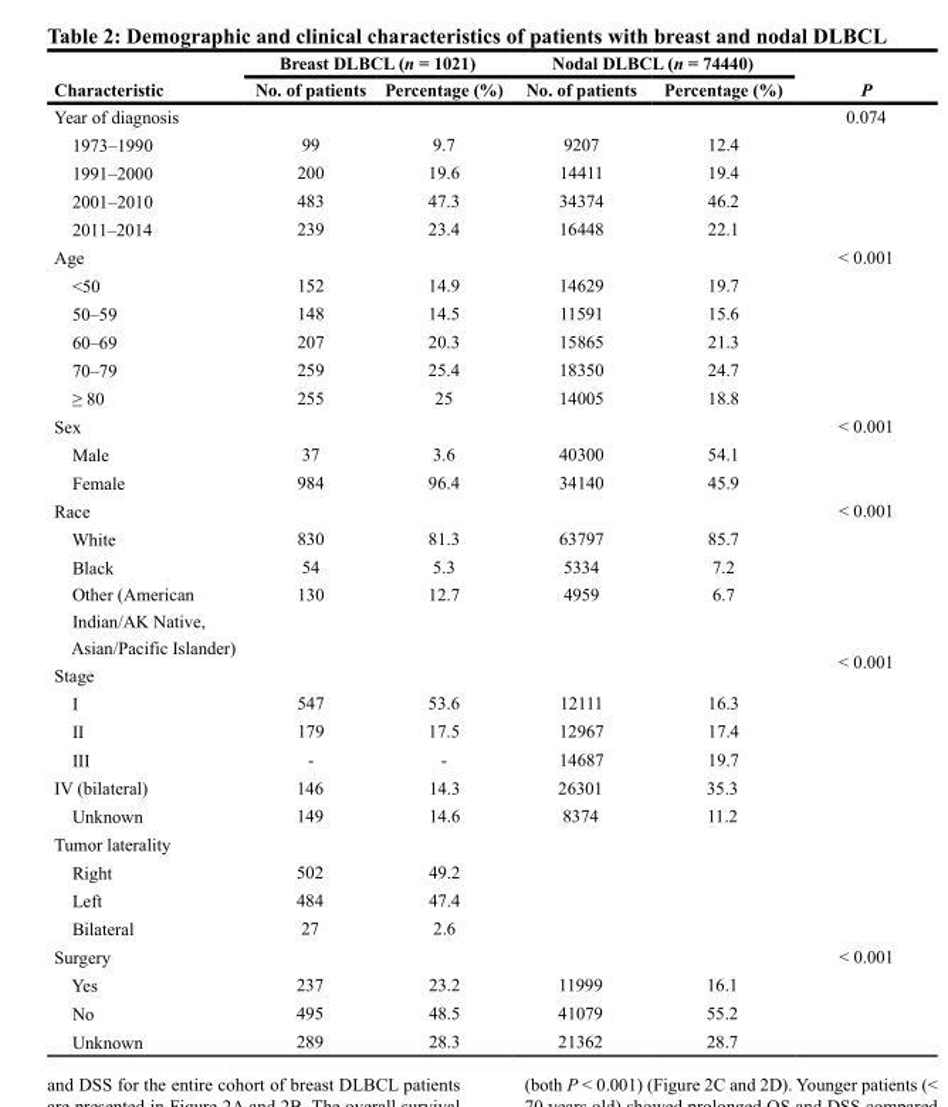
<table><thead><tr><td rowspan="2">Characteristic</td><td colspan="2">Breast DLBCL (n = 1021)</td><td colspan="2">Nodal DLBCL (n = 74440)</td><td rowspan="2">P</td></tr><tr><td>No. of patients</td><td>Percentage (%)</td><td>No. of patients</td><td>Percentage (%)</td></tr></thead><tbody><tr><td>Year of diagnosis</td><td></td><td></td><td></td><td></td><td>0.074</td></tr><tr><td>1973–1990</td><td>99</td><td>9.7</td><td>9207</td><td>12.4</td><td></td></tr><tr><td>1991–2000</td><td>200</td><td>19.6</td><td>14411</td><td>19.4</td><td></td></tr><tr><td>2001–2010</td><td>483</td><td>47.3</td><td>34374</td><td>46.2</td><td></td></tr><tr><td>2011–2014</td><td>239</td><td>23.4</td><td>16448</td><td>22.1</td><td></td></tr><tr><td>Age</td><td></td><td></td><td></td><td></td><td>&lt; 0.001</td></tr><tr><td>&lt;50</td><td>152</td><td>14.9</td><td>14629</td><td>19.7</td><td></td></tr><tr><td>50–59</td><td>148</td><td>14.5</td><td>11591</td><td>15.6</td><td></td></tr><tr><td>60–69</td><td>207</td><td>20.3</td><td>15865</td><td>21.3</td><td></td></tr><tr><td>70–79</td><td>259</td><td>25.4</td><td>18350</td><td>24.7</td><td></td></tr><tr><td>≥ 80</td><td>255</td><td>25</td><td>14005</td><td>18.8</td><td></td></tr><tr><td>Sex</td><td></td><td></td><td></td><td></td><td>&lt; 0.001</td></tr><tr><td>Male</td><td>37</td><td>3.6</td><td>40300</td><td>54.1</td><td></td></tr><tr><td>Female</td><td>984</td><td>96.4</td><td>34140</td><td>45.9</td><td></td></tr><tr><td>Race</td><td></td><td></td><td></td><td></td><td>&lt; 0.001</td></tr><tr><td>White</td><td>830</td><td>81.3</td><td>63797</td><td>85.7</td><td></td></tr><tr><td>Black</td><td>54</td><td>5.3</td><td>5334</td><td>7.2</td><td></td></tr><tr><td>Other (American</td><td>130</td><td>12.7</td><td>4959</td><td>6.7</td><td></td></tr><tr><td colspan="6">Indian/AK Native,</td></tr><tr><td colspan="5">Asian/Pacific Islander)</td><td rowspan="2">&lt; 0.001</td></tr><tr><td colspan="5">Stage</td></tr><tr><td>I</td><td>547</td><td>53.6</td><td>12111</td><td>16.3</td><td></td></tr><tr><td>II</td><td>179</td><td>17.5</td><td>12967</td><td>17.4</td><td></td></tr><tr><td>III</td><td>-</td><td>-</td><td>14687</td><td>19.7</td><td></td></tr><tr><td>IV (bilateral)</td><td>146</td><td>14.3</td><td>26301</td><td>35.3</td><td></td></tr><tr><td>Unknown</td><td>149</td><td>14.6</td><td>8374</td><td>11.2</td><td></td></tr><tr><td colspan="6">Tumor laterality</td></tr><tr><td>Right</td><td>502</td><td>49.2</td><td></td><td></td><td></td></tr><tr><td>Left</td><td>484</td><td>47.4</td><td></td><td></td><td></td></tr><tr><td>Bilateral</td><td>27</td><td>2.6</td><td></td><td></td><td></td></tr><tr><td>Surgery</td><td></td><td></td><td></td><td></td><td>&lt; 0.001</td></tr><tr><td>Yes</td><td>237</td><td>23.2</td><td>11999</td><td>16.1</td><td></td></tr><tr><td>No</td><td>495</td><td>48.5</td><td>41079</td><td>55.2</td><td></td></tr><tr><td>Unknown</td><td>289</td><td>28.3</td><td>21362</td><td>28.7</td><td></td></tr></tbody></table>